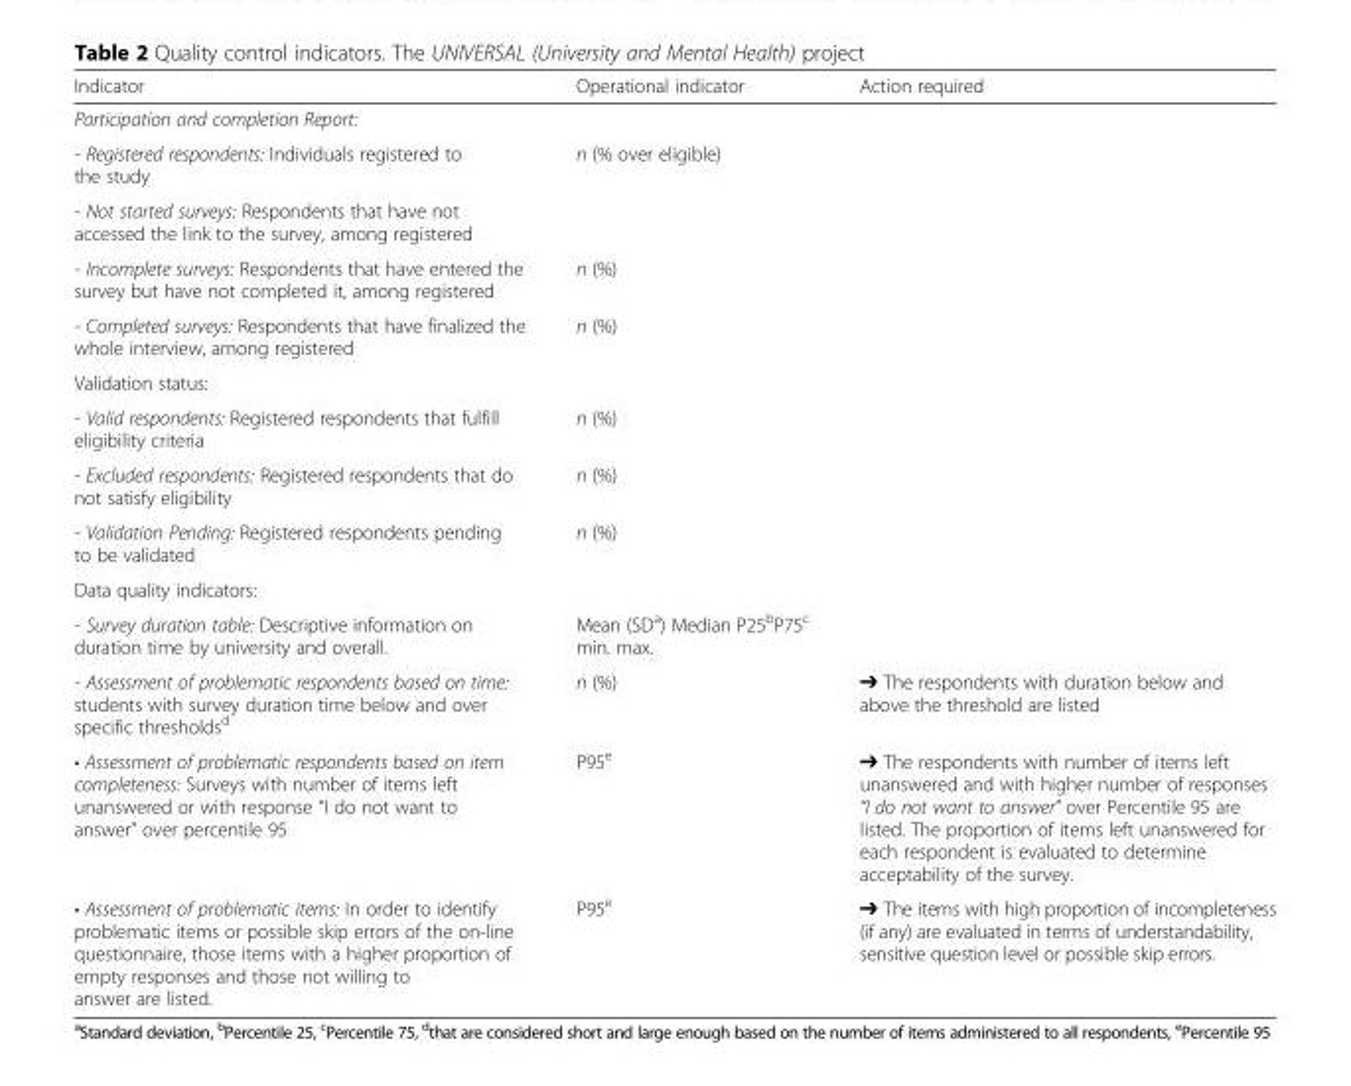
<table><thead><tr><td>Indicator</td><td>Operational indicator</td><td>Action required</td></tr></thead><tbody><tr><td colspan="3">Participation and completion Report:</td></tr><tr><td>- Registered respondents: Individuals registered to the study</td><td>n (% over eligible)</td><td></td></tr><tr><td colspan="3">- Not started surveys: Respondents that have not accessed the link to the survey, among registered</td></tr><tr><td>- Incomplete surveys: Respondents that have entered the survey but have not completed it, among registered</td><td>n (%)</td><td></td></tr><tr><td>- Completed surveys: Respondents that have finalized the whole interview, among registered</td><td>n (%)</td><td></td></tr><tr><td colspan="3">Validation status:</td></tr><tr><td>- Valid respondents: Registered respondents that fulfill eligibility criteria</td><td>n (%)</td><td></td></tr><tr><td>- Excluded respondents: Registered respondents that do not satisfy eligibility</td><td>n (%)</td><td></td></tr><tr><td>- Validation Pending: Registered respondents pending to be validated</td><td>n (%)</td><td></td></tr><tr><td colspan="3">Data quality indicators:</td></tr><tr><td>- Survey duration table: Descriptive information on duration time by university and overall.</td><td>Mean (SD<sup>a</sup>) Median P25<sup>b</sup>P75<sup>c</sup> min. max.</td><td></td></tr><tr><td>- Assessment of problematic respondents based on time: students with survey duration time below and over specific thresholds<sup>d</sup></td><td>n (%)</td><td>➔ The respondents with duration below and above the threshold are listed</td></tr><tr><td>• Assessment of problematic respondents based on item completeness: Surveys with number of items left unanswered or with response “I do not want to answer” over percentile 95</td><td>P95<sup>e</sup></td><td>➔ The respondents with number of items left unanswered and with higher number of responses “I do not want to answer” over Percentile 95 are listed. The proportion of items left unanswered for each respondent is evaluated to determine acceptability of the survey.</td></tr><tr><td>• Assessment of problematic items: In order to identify problematic items or possible skip errors of the on-line questionnaire, those items with a higher proportion of empty responses and those not willing to answer are listed.</td><td>P95<sup>e</sup></td><td>➔ The items with high proportion of incompleteness (if any) are evaluated in terms of understandability, sensitive question level or possible skip errors.</td></tr></tbody></table>